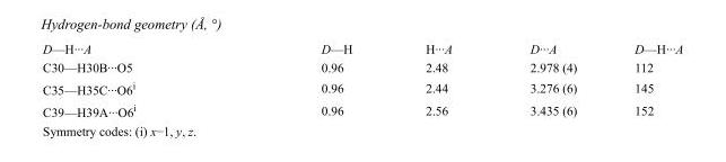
<table><tbody><tr><td>D—H···A</td><td>D—H</td><td>H···A</td><td>D···A</td><td>D—H···A</td></tr><tr><td>C30—H30B···O5</td><td>0.96</td><td>2.48</td><td>2.978 (4)</td><td>112</td></tr><tr><td>C35—H35C···O6<sup>i</sup></td><td>0.96</td><td>2.44</td><td>3.276 (6)</td><td>145</td></tr><tr><td>C39—H39A···O6<sup>i</sup></td><td>0.96</td><td>2.56</td><td>3.435 (6)</td><td>152</td></tr></tbody></table>